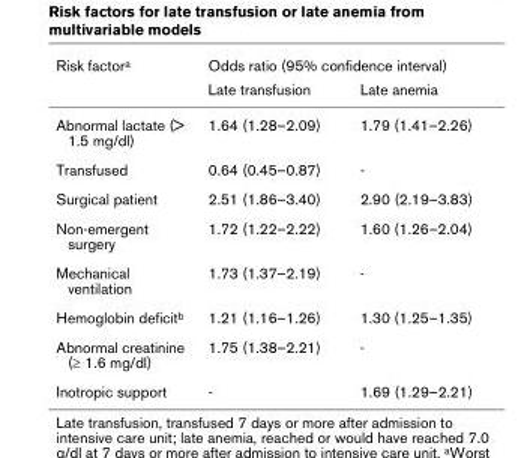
<table><thead><tr><td rowspan="2">Risk factora</td><td colspan="2">Odds ratio (95% confidence interval)</td></tr><tr><td>Late transfusion</td><td>Late anemia</td></tr></thead><tbody><tr><td>Abnormal lactate (&gt; 1.5 mg/dl)</td><td>1.64 (1.28–2.09)</td><td>1.79 (1.41–2.26)</td></tr><tr><td>Transfused</td><td>0.64 (0.45–0.87)</td><td>-</td></tr><tr><td>Surgical patient</td><td>2.51 (1.86–3.40)</td><td>2.90 (2.19–3.83)</td></tr><tr><td>Non-emergent surgery</td><td>1.72 (1.22–2.22)</td><td>1.60 (1.26–2.04)</td></tr><tr><td>Mechanical ventilation</td><td>1.73 (1.37–2.19)</td><td>-</td></tr><tr><td>Hemoglobin deficitb</td><td>1.21 (1.16–1.26)</td><td>1.30 (1.25–1.35)</td></tr><tr><td>Abnormal creatinine (≥ 1.6 mg/dl)</td><td>1.75 (1.38–2.21)</td><td>-</td></tr><tr><td>Inotropic support</td><td>-</td><td>1.69 (1.29–2.21)</td></tr></tbody></table>